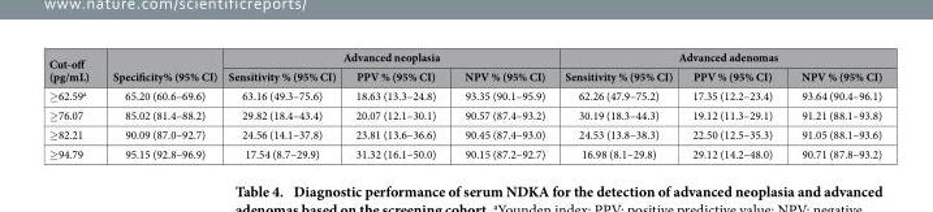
<table><thead><tr><td rowspan="2">Cut-off (pg/mL)</td><td rowspan="2">Specificity% (95% CI)</td><td colspan="3">Advanced neoplasia</td><td colspan="3">Advanced adenomas</td></tr><tr><td>Sensitivity % (95% CI)</td><td>PPV % (95% CI)</td><td>NPV % (95% CI)</td><td>Sensitivity % (95% CI)</td><td>PPV % (95% CI)</td><td>NPV % (95% CI)</td></tr></thead><tbody><tr><td>≥ 62.59<sup>a</sup></td><td>65.20 (60.6–69.6)</td><td>63.16 (49.3–75.6)</td><td>18.63 (13.3–24.8)</td><td>93.35 (90.1–95.9)</td><td>62.26 (47.9–75.2)</td><td>17.35 (12.2–23.4)</td><td>93.64 (90.4–96.1)</td></tr><tr><td>≥ 76.07</td><td>85.02 (81.4–88.2)</td><td>29.82 (18.4–43.4)</td><td>20.07 (12.1–30.1)</td><td>90.57 (87.4–93.2)</td><td>30.19 (18.3–44.3)</td><td>19.12 (11.3–29.1)</td><td>91.21 (88.1–93.8)</td></tr><tr><td>≥ 82.21</td><td>90.09 (87.0–92.7)</td><td>24.56 (14.1–37.8)</td><td>23.81 (13.6–36.6)</td><td>90.45 (87.4–93.0)</td><td>24.53 (13.8–38.3)</td><td>22.50 (12.5–35.3)</td><td>91.05 (88.1–93.6)</td></tr><tr><td>≥ 94.79</td><td>95.15 (92.8–96.9)</td><td>17.54 (8.7–29.9)</td><td>31.32 (16.1–50.0)</td><td>90.15 (87.2–92.7)</td><td>16.98 (8.1–29.8)</td><td>29.12 (14.2–48.0)</td><td>90.71 (87.8–93.2)</td></tr></tbody></table>